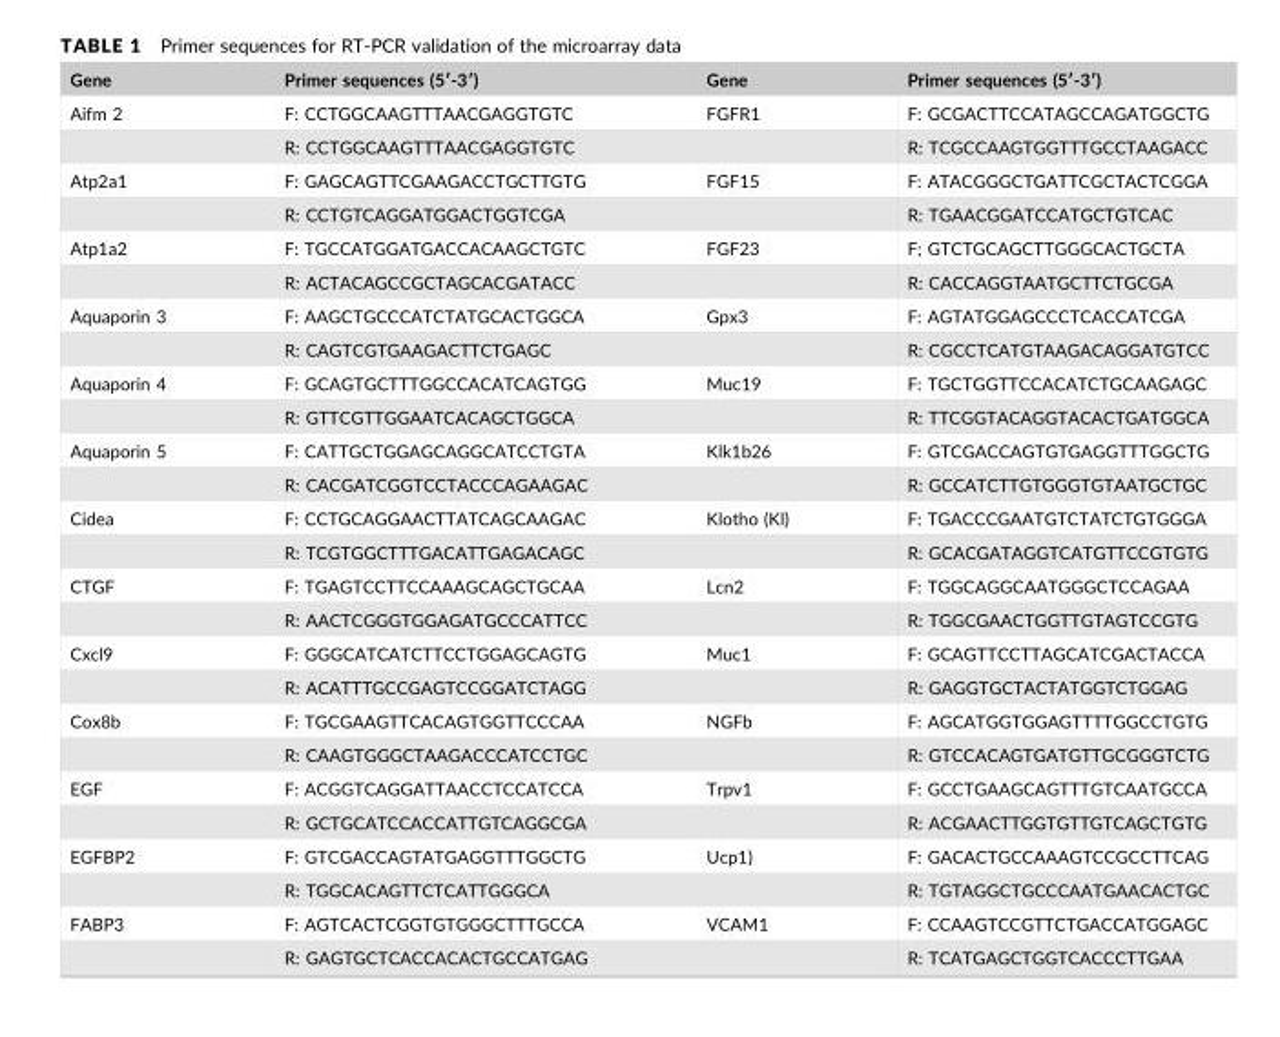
<table><thead><tr><td>Gene</td><td>Primer sequences (5′-3′)</td><td>Gene</td><td>Primer sequences (5′-3′)</td></tr></thead><tbody><tr><td rowspan="2">Aifm 2</td><td>F: CCTGGCAAGTTTAACGAGGTGTC</td><td>FGFR1</td><td>F: GCGACTTCCATAGCCAGATGGCTG</td></tr><tr><td>R: CCTGGCAAGTTTAACGAGGTGTC</td><td></td><td>R: TCGCCAAGTGGTTTGCCTAAGACC</td></tr><tr><td rowspan="2">Atp2a1</td><td>F: GAGCAGTTCGAAGACCTGCTTGTG</td><td>FGF15</td><td>F: ATACGGGCTGATTCGCTACTCGGA</td></tr><tr><td>R: CCTGTCAGGATGGACTGGTCGA</td><td></td><td>R: TGAACGGATCCATGCTGTCAC</td></tr><tr><td rowspan="2">Atp1a2</td><td>F: TGCCATGGATGACCACAAGCTGTC</td><td>FGF23</td><td>F; GTCTGCAGCTTGGGCACTGCTA</td></tr><tr><td>R: ACTACAGCCGCTAGCACGATACC</td><td></td><td>R: CACCAGGTAATGCTTCTGCGA</td></tr><tr><td rowspan="2">Aquaporin 3</td><td>F: AAGCTGCCCATCTATGCACTGGCA</td><td>Gpx3</td><td>F: AGTATGGAGCCCTCACCATCGA</td></tr><tr><td>R: CAGTCGTGAAGACTTCTGAGC</td><td></td><td>R: CGCCTCATGTAAGACAGGATGTCC</td></tr><tr><td rowspan="2">Aquaporin 4</td><td>F: GCAGTGCTTTGGCCACATCAGTGG</td><td>Muc19</td><td>F: TGCTGGTTCCACATCTGCAAGAGC</td></tr><tr><td>R: GTTCGTTGGAATCACAGCTGGCA</td><td></td><td>R: TTCGGTACAGGTACACTGATGGCA</td></tr><tr><td rowspan="2">Aquaporin 5</td><td>F: CATTGCTGGAGCAGGCATCCTGTA</td><td>Klk1b26</td><td>F: GTCGACCAGTGTGAGGTTTGGCTG</td></tr><tr><td>R: CACGATCGGTCCTACCCAGAAGAC</td><td></td><td>R: GCCATCTTGTGGGTGTAATGCTGC</td></tr><tr><td rowspan="2">Cidea</td><td>F: CCTGCAGGAACTTATCAGCAAGAC</td><td>Klotho (Kl)</td><td>F: TGACCCGAATGTCTATCTGTGGGA</td></tr><tr><td>R: TCGTGGCTTTGACATTGAGACAGC</td><td></td><td>R: GCACGATAGGTCATGTTCCGTGTG</td></tr><tr><td rowspan="2">CTGF</td><td>F: TGAGTCCTTCCAAAGCAGCTGCAA</td><td>Lcn2</td><td>F: TGGCAGGCAATGGGCTCCAGAA</td></tr><tr><td>R: AACTCGGGTGGAGATGCCCATTCC</td><td></td><td>R: TGGCGAACTGGTTGTAGTCCGTG</td></tr><tr><td rowspan="2">Cxcl9</td><td>F: GGGCATCATCTTCCTGGAGCAGTG</td><td>Muc1</td><td>F: GCAGTTCCTTAGCATCGACTACCA</td></tr><tr><td>R: ACATTTGCCGAGTCCGGATCTAGG</td><td></td><td>R: GAGGTGCTACTATGGTCTGGAG</td></tr><tr><td rowspan="2">Cox8b</td><td>F: TGCGAAGTTCACAGTGGTTCCCAA</td><td>NGFb</td><td>F: AGCATGGTGGAGTTTTGGCCTGTG</td></tr><tr><td>R: CAAGTGGGCTAAGACCCATCCTGC</td><td></td><td>R: GTCCACAGTGATGTTGCGGGTCTG</td></tr><tr><td rowspan="2">EGF</td><td>F: ACGGTCAGGATTAACCTCCATCCA</td><td>Trpv1</td><td>F: GCCTGAAGCAGTTTGTCAATGCCA</td></tr><tr><td>R: GCTGCATCCACCATTGTCAGGCGA</td><td></td><td>R: ACGAACTTGGTGTTGTCAGCTGTG</td></tr><tr><td rowspan="2">EGFBP2</td><td>F: GTCGACCAGTATGAGGTTTGGCTG</td><td>Ucp1)</td><td>F: GACACTGCCAAAGTCCGCCTTCAG</td></tr><tr><td>R: TGGCACAGTTCTCATTGGGCA</td><td></td><td>R: TGTAGGCTGCCCAATGAACACTGC</td></tr><tr><td rowspan="2">FABP3</td><td>F: AGTCACTCGGTGTGGGCTTTGCCA</td><td>VCAM1</td><td>F: CCAAGTCCGTTCTGACCATGGAGC</td></tr><tr><td>R: GAGTGCTCACCACACTGCCATGAG</td><td></td><td>R: TCATGAGCTGGTCACCCTTGAA</td></tr></tbody></table>